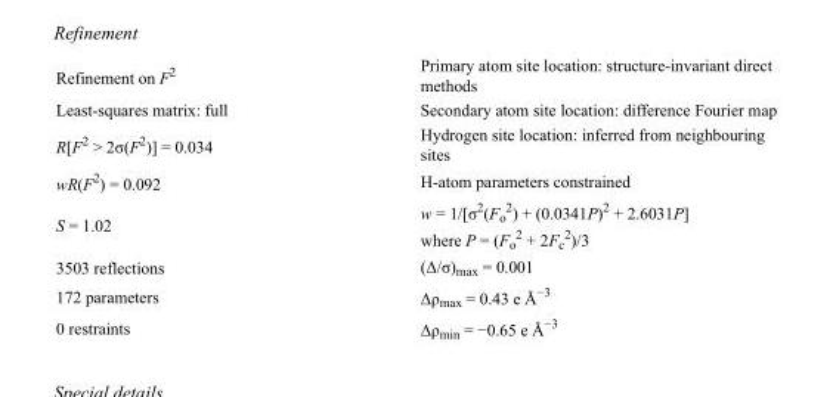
<table><tbody><tr><td>Refinement on F<sup>2</sup></td><td>Primary atom site location: structure-invariant direct methods</td></tr><tr><td>Least-squares matrix: full</td><td>Secondary atom site location: difference Fourier map</td></tr><tr><td>R[F<sup>2</sup> &gt; 2σ(F<sup>2</sup>)] = 0.034</td><td>Hydrogen site location: inferred from neighbouring sites</td></tr><tr><td>wR(F<sup>2</sup>) = 0.092</td><td>H-atom parameters constrained</td></tr><tr><td>S = 1.02</td><td>w = 1/[σ<sup>2</sup>(F<sub>o</sub> <sup>2</sup>) + (0.0341P)<sup>2</sup> + 2.6031P] where P = (F<sub>o</sub> <sup>2</sup> + 2F<sub>c</sub> <sup>2</sup>)/3</td></tr><tr><td>3503 reflections</td><td>(Δ/σ)<sub>max</sub> = 0.001</td></tr><tr><td>172 parameters</td><td>Δρ<sub>max</sub> = 0.43 e Å<sup>−3</sup></td></tr><tr><td>0 restraints</td><td>Δρ<sub>min</sub> = −0.65 e Å<sup>−3</sup></td></tr></tbody></table>